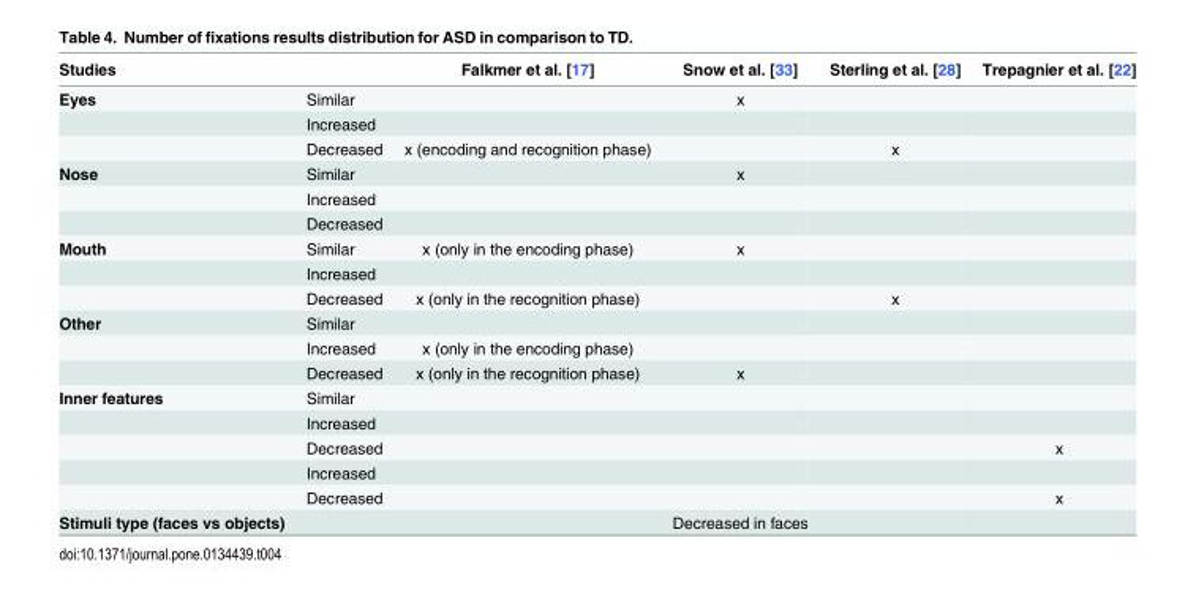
<table><thead><tr><td>Studies</td><td></td><td>Falkmer et al. [17]</td><td>Snow et al. [33]</td><td>Sterling et al. [28]</td><td>Trepagnier et al. [22]</td></tr></thead><tbody><tr><td rowspan="3">Eyes</td><td>Similar</td><td></td><td>x</td><td></td><td></td></tr><tr><td>Increased</td><td></td><td></td><td></td><td></td></tr><tr><td>Decreased</td><td>x (encoding and recognition phase)</td><td></td><td>x</td><td></td></tr><tr><td rowspan="3">Nose</td><td>Similar</td><td></td><td>x</td><td></td><td></td></tr><tr><td>Increased</td><td></td><td></td><td></td><td></td></tr><tr><td>Decreased</td><td></td><td></td><td></td><td></td></tr><tr><td rowspan="3">Mouth</td><td>Similar</td><td>x (only in the encoding phase)</td><td>x</td><td></td><td></td></tr><tr><td>Increased</td><td></td><td></td><td></td><td></td></tr><tr><td>Decreased</td><td>x (only in the recognition phase)</td><td></td><td>x</td><td></td></tr><tr><td rowspan="3">Other</td><td>Similar</td><td></td><td></td><td></td><td></td></tr><tr><td>Increased</td><td>x (only in the encoding phase)</td><td></td><td></td><td></td></tr><tr><td>Decreased</td><td>x (only in the recognition phase)</td><td>x</td><td></td><td></td></tr><tr><td rowspan="3">Inner features</td><td>Similar</td><td></td><td></td><td></td><td></td></tr><tr><td>Increased</td><td></td><td></td><td></td><td></td></tr><tr><td>Decreased Increased Decreased</td><td></td><td></td><td></td><td>x x</td></tr><tr><td>Stimuli type (faces vs objects)</td><td></td><td></td><td>Decreased in faces</td><td></td><td></td></tr></tbody></table>